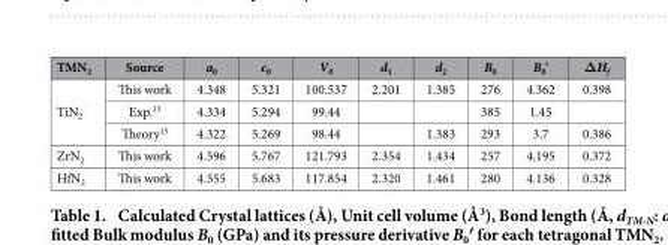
<table><thead><tr><td>TMN<sub>2</sub></td><td>Source</td><td>a<sub>0</sub></td><td>c<sub>0</sub></td><td>V<sub>0</sub></td><td>d<sub>1</sub></td><td>d<sub>2</sub></td><td>B<sub>0</sub></td><td>B<sub>0</sub>&#x27;</td><td>ΔH<sub>f</sub></td></tr></thead><tbody><tr><td rowspan="3">TiN<sub>2</sub></td><td>This work</td><td>4.348</td><td>5.321</td><td>100.537</td><td>2.201</td><td>1.385</td><td>276</td><td>4.362</td><td>0.398</td></tr><tr><td>Exp.<sup>15</sup></td><td>4.334</td><td>5.294</td><td>99.44</td><td></td><td></td><td>385</td><td>1.45</td><td></td></tr><tr><td>Theory<sup>15</sup></td><td>4.322</td><td>5.269</td><td>98.44</td><td></td><td>1.383</td><td>293</td><td>3.7</td><td>0.386</td></tr><tr><td>ZrN<sub>2</sub></td><td>This work</td><td>4.596</td><td>5.767</td><td>121.793</td><td>2.354</td><td>1.434</td><td>257</td><td>4.195</td><td>0.372</td></tr><tr><td>HfN<sub>2</sub></td><td>This work</td><td>4.555</td><td>5.683</td><td>117.854</td><td>2.320</td><td>1.461</td><td>280</td><td>4.136</td><td>0.328</td></tr></tbody></table>